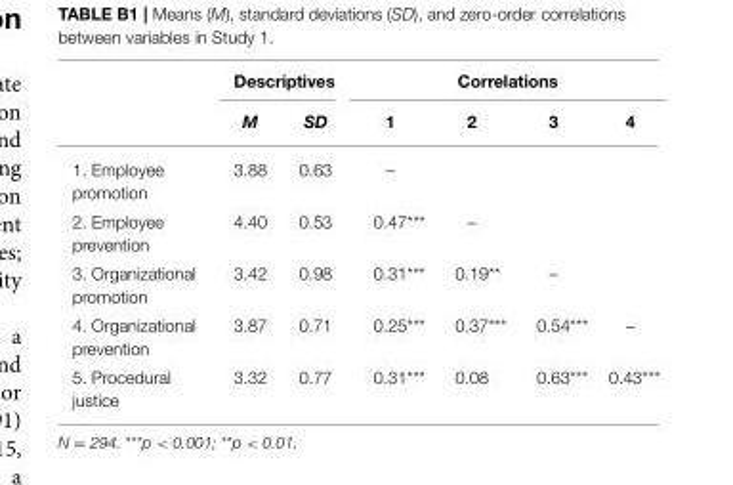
<table><thead><tr><td rowspan="2"></td><td colspan="2">Descriptives</td><td colspan="4">Correlations</td></tr><tr><td>M</td><td>SD</td><td>1</td><td>2</td><td>3</td><td>4</td></tr></thead><tbody><tr><td>1. Employee promotion</td><td>3.88</td><td>0.63</td><td>–</td><td></td><td></td><td></td></tr><tr><td>2. Employee prevention</td><td>4.40</td><td>0.53</td><td>0.47***</td><td>–</td><td></td><td></td></tr><tr><td>3. Organizational promotion</td><td>3.42</td><td>0.98</td><td>0.31***</td><td>0.19**</td><td>–</td><td></td></tr><tr><td>4. Organizational prevention</td><td>3.87</td><td>0.71</td><td>0.25***</td><td>0.37***</td><td>0.54***</td><td>–</td></tr><tr><td>5. Procedural justice</td><td>3.32</td><td>0.77</td><td>0.31***</td><td>0.08</td><td>0.63***</td><td>0.43***</td></tr></tbody></table>